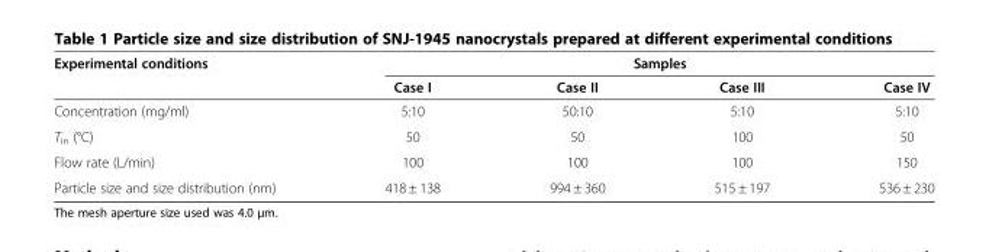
<table><thead><tr><td rowspan="2">Experimental conditions</td><td colspan="4">Samples</td></tr><tr><td>Case I</td><td>Case II</td><td>Case III</td><td>Case IV</td></tr></thead><tbody><tr><td>Concentration (mg/ml)</td><td>5:10</td><td>50:10</td><td>5:10</td><td>5:10</td></tr><tr><td>T<sub>in</sub> (°C)</td><td>50</td><td>50</td><td>100</td><td>50</td></tr><tr><td>Flow rate (L/min)</td><td>100</td><td>100</td><td>100</td><td>150</td></tr><tr><td>Particle size and size distribution (nm)</td><td>418 ± 138</td><td>994 ± 360</td><td>515 ± 197</td><td>536 ± 230</td></tr></tbody></table>